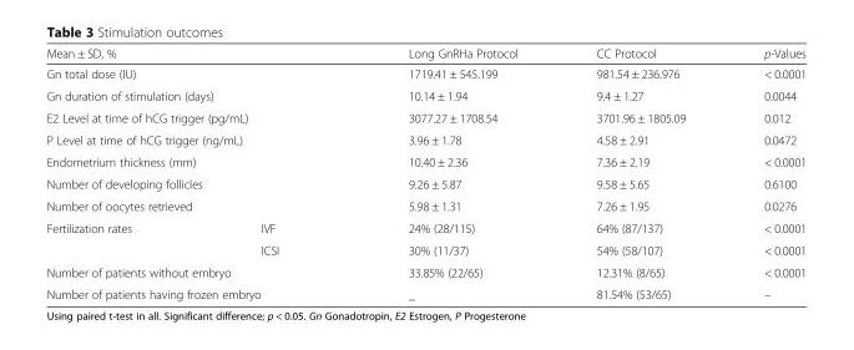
<table><thead><tr><td colspan="2">Mean ± SD, %</td><td>Long GnRHa Protocol</td><td>CC Protocol</td><td>p-Values</td></tr></thead><tbody><tr><td colspan="2">Gn total dose (IU)</td><td>1719.41 ± 545.199</td><td>981.54 ± 236.976</td><td>&lt; 0.0001</td></tr><tr><td colspan="2">Gn duration of stimulation (days)</td><td>10.14 ± 1.94</td><td>9.4 ± 1.27</td><td>0.0044</td></tr><tr><td colspan="2">E2 Level at time of hCG trigger (pg/mL)</td><td>3077.27 ± 1708.54</td><td>3701.96 ± 1805.09</td><td>0.012</td></tr><tr><td colspan="2">P Level at time of hCG trigger (ng/mL)</td><td>3.96 ± 1.78</td><td>4.58 ± 2.91</td><td>0.0472</td></tr><tr><td colspan="2">Endometrium thickness (mm)</td><td>10.40 ± 2.36</td><td>7.36 ± 2.19</td><td>&lt; 0.0001</td></tr><tr><td colspan="2">Number of developing follicles</td><td>9.26 ± 5.87</td><td>9.58 ± 5.65</td><td>0.6100</td></tr><tr><td colspan="2">Number of oocytes retrieved</td><td>5.98 ± 1.31</td><td>7.26 ± 1.95</td><td>0.0276</td></tr><tr><td rowspan="2">Fertilization rates</td><td>IVF</td><td>24% (28/115)</td><td>64% (87/137)</td><td>&lt; 0.0001</td></tr><tr><td>ICSI</td><td>30% (11/37)</td><td>54% (58/107)</td><td>&lt; 0.0001</td></tr><tr><td colspan="2">Number of patients without embryo</td><td>33.85% (22/65)</td><td>12.31% (8/65)</td><td>&lt; 0.0001</td></tr><tr><td colspan="2">Number of patients having frozen embryo</td><td>_</td><td>81.54% (53/65)</td><td>–</td></tr></tbody></table>